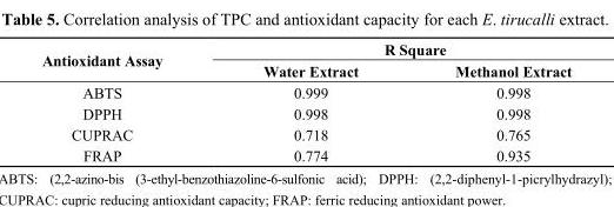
<table><thead><tr><td rowspan="2">Antioxidant Assay</td><td colspan="2">R Square</td></tr><tr><td>Water Extract</td><td>Methanol Extract</td></tr></thead><tbody><tr><td>ABTS</td><td>0.999</td><td>0.998</td></tr><tr><td>DPPH</td><td>0.998</td><td>0.998</td></tr><tr><td>CUPRAC</td><td>0.718</td><td>0.765</td></tr><tr><td>FRAP</td><td>0.774</td><td>0.935</td></tr></tbody></table>